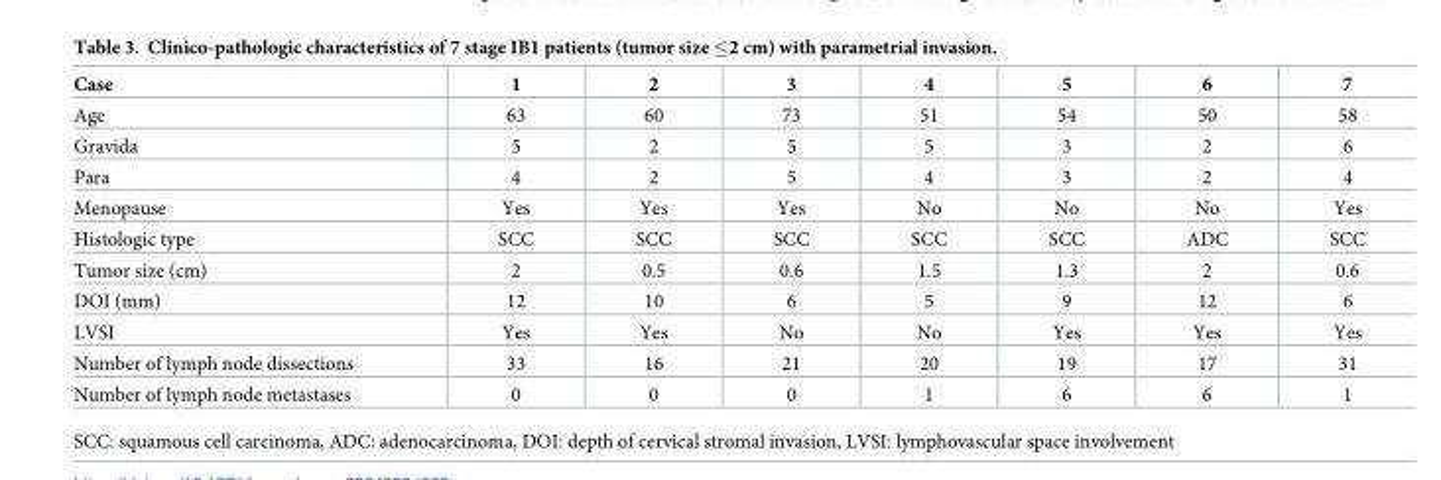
<table><thead><tr><td>Case</td><td>1</td><td>2</td><td>3</td><td>4</td><td>5</td><td>6</td><td>7</td></tr></thead><tbody><tr><td>Age</td><td>63</td><td>60</td><td>73</td><td>51</td><td>54</td><td>50</td><td>58</td></tr><tr><td>Gravida</td><td>5</td><td>2</td><td>5</td><td>5</td><td>3</td><td>2</td><td>6</td></tr><tr><td>Para</td><td>4</td><td>2</td><td>5</td><td>4</td><td>3</td><td>2</td><td>4</td></tr><tr><td>Menopause</td><td>Yes</td><td>Yes</td><td>Yes</td><td>No</td><td>No</td><td>No</td><td>Yes</td></tr><tr><td>Histologic type</td><td>SCC</td><td>SCC</td><td>SCC</td><td>SCC</td><td>SCC</td><td>ADC</td><td>SCC</td></tr><tr><td>Tumor size (cm)</td><td>2</td><td>0.5</td><td>0.6</td><td>1.5</td><td>1.3</td><td>2</td><td>0.6</td></tr><tr><td>DOI (mm)</td><td>12</td><td>10</td><td>6</td><td>5</td><td>9</td><td>12</td><td>6</td></tr><tr><td>LVSI</td><td>Yes</td><td>Yes</td><td>No</td><td>No</td><td>Yes</td><td>Yes</td><td>Yes</td></tr><tr><td>Number of lymph node dissections</td><td>33</td><td>16</td><td>21</td><td>20</td><td>19</td><td>17</td><td>31</td></tr><tr><td>Number of lymph node metastases</td><td>0</td><td>0</td><td>0</td><td>1</td><td>6</td><td>6</td><td>1</td></tr></tbody></table>